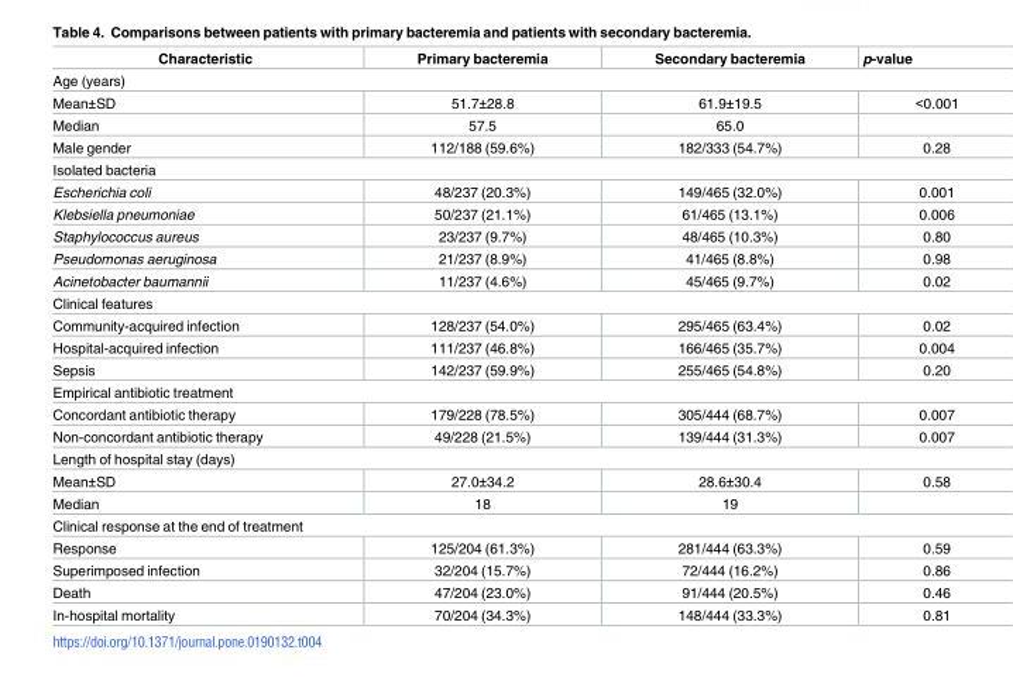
<table><thead><tr><td>Characteristic</td><td>Primary bacteremia</td><td>Secondary bacteremia</td><td>p-value</td></tr></thead><tbody><tr><td colspan="4">Age (years)</td></tr><tr><td>Mean±SD</td><td>51.7±28.8</td><td>61.9±19.5</td><td>&lt;0.001</td></tr><tr><td>Median</td><td>57.5</td><td>65.0</td><td></td></tr><tr><td>Male gender</td><td>112/188 (59.6%)</td><td>182/333 (54.7%)</td><td>0.28</td></tr><tr><td colspan="4">Isolated bacteria</td></tr><tr><td>Escherichia coli</td><td>48/237 (20.3%)</td><td>149/465 (32.0%)</td><td>0.001</td></tr><tr><td>Klebsiella pneumoniae</td><td>50/237 (21.1%)</td><td>61/465 (13.1%)</td><td>0.006</td></tr><tr><td>Staphylococcus aureus</td><td>23/237 (9.7%)</td><td>48/465 (10.3%)</td><td>0.80</td></tr><tr><td>Pseudomonas aeruginosa</td><td>21/237 (8.9%)</td><td>41/465 (8.8%)</td><td>0.98</td></tr><tr><td>Acinetobacter baumannii</td><td>11/237 (4.6%)</td><td>45/465 (9.7%)</td><td>0.02</td></tr><tr><td colspan="4">Clinical features</td></tr><tr><td>Community-acquired infection</td><td>128/237 (54.0%)</td><td>295/465 (63.4%)</td><td>0.02</td></tr><tr><td>Hospital-acquired infection</td><td>111/237 (46.8%)</td><td>166/465 (35.7%)</td><td>0.004</td></tr><tr><td>Sepsis</td><td>142/237 (59.9%)</td><td>255/465 (54.8%)</td><td>0.20</td></tr><tr><td colspan="4">Empirical antibiotic treatment</td></tr><tr><td>Concordant antibiotic therapy</td><td>179/228 (78.5%)</td><td>305/444 (68.7%)</td><td>0.007</td></tr><tr><td>Non-concordant antibiotic therapy</td><td>49/228 (21.5%)</td><td>139/444 (31.3%)</td><td>0.007</td></tr><tr><td colspan="4">Length of hospital stay (days)</td></tr><tr><td>Mean±SD</td><td>27.0±34.2</td><td>28.6±30.4</td><td>0.58</td></tr><tr><td>Median</td><td>18</td><td>19</td><td></td></tr><tr><td colspan="4">Clinical response at the end of treatment</td></tr><tr><td>Response</td><td>125/204 (61.3%)</td><td>281/444 (63.3%)</td><td>0.59</td></tr><tr><td>Superimposed infection</td><td>32/204 (15.7%)</td><td>72/444 (16.2%)</td><td>0.86</td></tr><tr><td>Death</td><td>47/204 (23.0%)</td><td>91/444 (20.5%)</td><td>0.46</td></tr><tr><td>In-hospital mortality</td><td>70/204 (34.3%)</td><td>148/444 (33.3%)</td><td>0.81</td></tr></tbody></table>